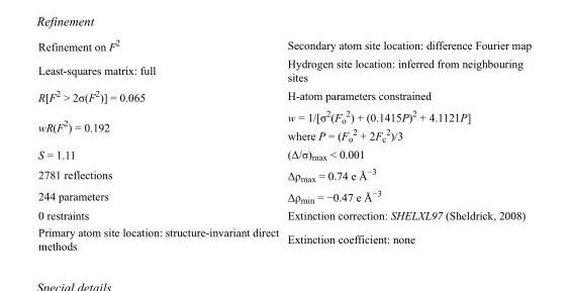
<table><tbody><tr><td>Refinement on F<sup>2</sup></td><td>Secondary atom site location: difference Fourier map</td></tr><tr><td>Least-squares matrix: full</td><td>Hydrogen site location: inferred from neighbouring sites</td></tr><tr><td>R[F<sup>2</sup> &gt; 2σ(F<sup>2</sup>)] = 0.065</td><td>H-atom parameters constrained</td></tr><tr><td>wR(F<sup>2</sup>) = 0.192</td><td>w = 1/[σ<sup>2</sup>(F<sub>o</sub> <sup>2</sup>) + (0.1415P)<sup>2</sup> + 4.1121P] where P = (F<sub>o</sub> <sup>2</sup> + 2F<sub>c</sub> <sup>2</sup>)/3</td></tr><tr><td>S = 1.11</td><td>(Δ/σ)<sub>max</sub> &lt; 0.001</td></tr><tr><td>2781 reflections</td><td>Δρ<sub>max</sub> = 0.74 e Å<sup>−3</sup></td></tr><tr><td>244 parameters</td><td>Δρ<sub>min</sub> = −0.47 e Å<sup>−3</sup></td></tr><tr><td>0 restraints</td><td>Extinction correction: SHELXL97 (Sheldrick, 2008)</td></tr><tr><td>Primary atom site location: structure-invariant direct methods</td><td>Extinction coefficient: none</td></tr></tbody></table>